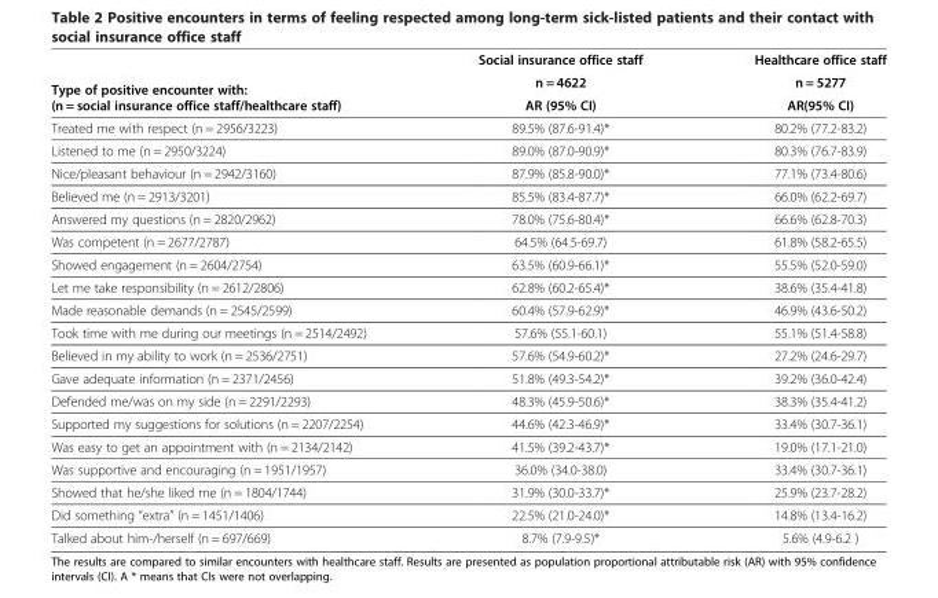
<table><thead><tr><td rowspan="3">Type of positive encounter with: (n = social insurance office staff/healthcare staff)</td><td rowspan="3">Social insurance office staff n = 4622 AR (95% CI)</td><td rowspan="3">Healthcare office staff n = 5277 AR(95% CI)</td></tr><tr></tr><tr></tr></thead><tbody><tr><td>Treated me with respect (n = 2956/3223)</td><td>89.5% (87.6-91.4)*</td><td>80.2% (77.2-83.2)</td></tr><tr><td>Listened to me (n = 2950/3224)</td><td>89.0% (87.0-90.9)*</td><td>80.3% (76.7-83.9)</td></tr><tr><td>Nice/pleasant behaviour (n = 2942/3160)</td><td>87.9% (85.8-90.0)*</td><td>77.1% (73.4-80.6)</td></tr><tr><td>Believed me (n = 2913/3201)</td><td>85.5% (83.4-87.7)*</td><td>66.0% (62.2-69.7)</td></tr><tr><td>Answered my questions (n = 2820/2962)</td><td>78.0% (75.6-80.4)*</td><td>66.6% (62.8-70.3)</td></tr><tr><td>Was competent (n = 2677/2787)</td><td>64.5% (64.5-69.7)</td><td>61.8% (58.2-65.5)</td></tr><tr><td>Showed engagement (n = 2604/2754)</td><td>63.5% (60.9-66.1)*</td><td>55.5% (52.0-59.0)</td></tr><tr><td>Let me take responsibility (n = 2612/2806)</td><td>62.8% (60.2-65.4)*</td><td>38.6% (35.4-41.8)</td></tr><tr><td>Made reasonable demands (n = 2545/2599)</td><td>60.4% (57.9-62.9)*</td><td>46.9% (43.6-50.2)</td></tr><tr><td>Took time with me during our meetings (n = 2514/2492)</td><td>57.6% (55.1-60.1)</td><td>55.1% (51.4-58.8)</td></tr><tr><td>Believed in my ability to work (n = 2536/2751)</td><td>57.6% (54.9-60.2)*</td><td>27.2% (24.6-29.7)</td></tr><tr><td>Gave adequate information (n = 2371/2456)</td><td>51.8% (49.3-54.2)*</td><td>39.2% (36.0-42.4)</td></tr><tr><td>Defended me/was on my side (n = 2291/2293)</td><td>48.3% (45.9-50.6)*</td><td>38.3% (35.4-41.2)</td></tr><tr><td>Supported my suggestions for solutions (n = 2207/2254)</td><td>44.6% (42.3-46.9)*</td><td>33.4% (30.7-36.1)</td></tr><tr><td>Was easy to get an appointment with (n = 2134/2142)</td><td>41.5% (39.2-43.7)*</td><td>19.0% (17.1-21.0)</td></tr><tr><td>Was supportive and encouraging (n = 1951/1957)</td><td>36.0% (34.0-38.0)</td><td>33.4% (30.7-36.1)</td></tr><tr><td>Showed that he/she liked me (n = 1804/1744)</td><td>31.9% (30.0-33.7)*</td><td>25.9% (23.7-28.2)</td></tr><tr><td>Did something “extra” (n = 1451/1406)</td><td>22.5% (21.0-24.0)*</td><td>14.8% (13.4-16.2)</td></tr><tr><td>Talked about him-/herself (n = 697/669)</td><td>8.7% (7.9-9.5)*</td><td>5.6% (4.9-6.2 )</td></tr></tbody></table>